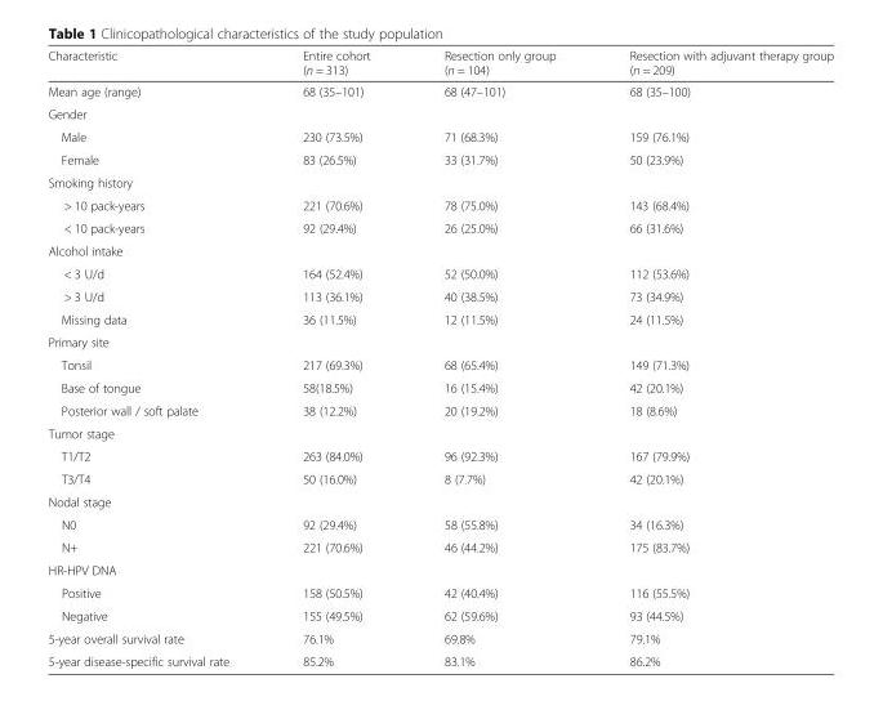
<table><thead><tr><td>Characteristic</td><td>Entire cohort (n = 313)</td><td>Resection only group (n = 104)</td><td>Resection with adjuvant therapy group (n = 209)</td></tr></thead><tbody><tr><td>Mean age (range)</td><td>68 (35–101)</td><td>68 (47–101)</td><td>68 (35–100)</td></tr><tr><td colspan="4">Gender</td></tr><tr><td>Male</td><td>230 (73.5%)</td><td>71 (68.3%)</td><td>159 (76.1%)</td></tr><tr><td>Female</td><td>83 (26.5%)</td><td>33 (31.7%)</td><td>50 (23.9%)</td></tr><tr><td colspan="4">Smoking history</td></tr><tr><td>&gt; 10 pack-years</td><td>221 (70.6%)</td><td>78 (75.0%)</td><td>143 (68.4%)</td></tr><tr><td>&lt; 10 pack-years</td><td>92 (29.4%)</td><td>26 (25.0%)</td><td>66 (31.6%)</td></tr><tr><td colspan="4">Alcohol intake</td></tr><tr><td>&lt; 3 U/d</td><td>164 (52.4%)</td><td>52 (50.0%)</td><td>112 (53.6%)</td></tr><tr><td>&gt; 3 U/d</td><td>113 (36.1%)</td><td>40 (38.5%)</td><td>73 (34.9%)</td></tr><tr><td>Missing data</td><td>36 (11.5%)</td><td>12 (11.5%)</td><td>24 (11.5%)</td></tr><tr><td colspan="4">Primary site</td></tr><tr><td>Tonsil</td><td>217 (69.3%)</td><td>68 (65.4%)</td><td>149 (71.3%)</td></tr><tr><td>Base of tongue</td><td>58(18.5%)</td><td>16 (15.4%)</td><td>42 (20.1%)</td></tr><tr><td>Posterior wall / soft palate</td><td>38 (12.2%)</td><td>20 (19.2%)</td><td>18 (8.6%)</td></tr><tr><td colspan="4">Tumor stage</td></tr><tr><td>T1/T2</td><td>263 (84.0%)</td><td>96 (92.3%)</td><td>167 (79.9%)</td></tr><tr><td>T3/T4</td><td>50 (16.0%)</td><td>8 (7.7%)</td><td>42 (20.1%)</td></tr><tr><td colspan="4">Nodal stage</td></tr><tr><td>N0</td><td>92 (29.4%)</td><td>58 (55.8%)</td><td>34 (16.3%)</td></tr><tr><td>N+</td><td>221 (70.6%)</td><td>46 (44.2%)</td><td>175 (83.7%)</td></tr><tr><td colspan="4">HR-HPV DNA</td></tr><tr><td>Positive</td><td>158 (50.5%)</td><td>42 (40.4%)</td><td>116 (55.5%)</td></tr><tr><td>Negative</td><td>155 (49.5%)</td><td>62 (59.6%)</td><td>93 (44.5%)</td></tr><tr><td>5-year overall survival rate</td><td>76.1%</td><td>69.8%</td><td>79.1%</td></tr><tr><td>5-year disease-specific survival rate</td><td>85.2%</td><td>83.1%</td><td>86.2%</td></tr></tbody></table>